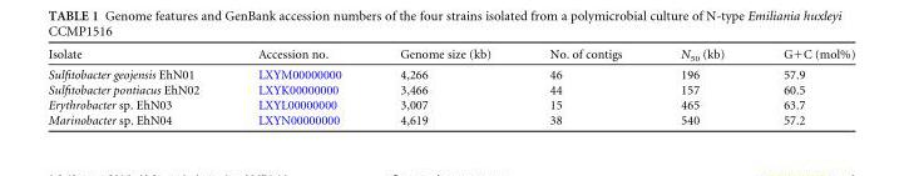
<table><thead><tr><td>Isolate</td><td>Accession no.</td><td>Genome size (kb)</td><td>No. of contigs</td><td>N<sub>50</sub> (kb)</td><td>G+C (mol%)</td></tr></thead><tbody><tr><td>Sulfitobacter geojensis EhN01</td><td>LXYM00000000</td><td>4,266</td><td>46</td><td>196</td><td>57.9</td></tr><tr><td>Sulfitobacter pontiacus EhN02</td><td>LXYK00000000</td><td>3,466</td><td>44</td><td>157</td><td>60.5</td></tr><tr><td>Erythrobacter sp. EhN03</td><td>LXYL00000000</td><td>3,007</td><td>15</td><td>465</td><td>63.7</td></tr><tr><td>Marinobacter sp. EhN04</td><td>LXYN00000000</td><td>4,619</td><td>38</td><td>540</td><td>57.2</td></tr></tbody></table>